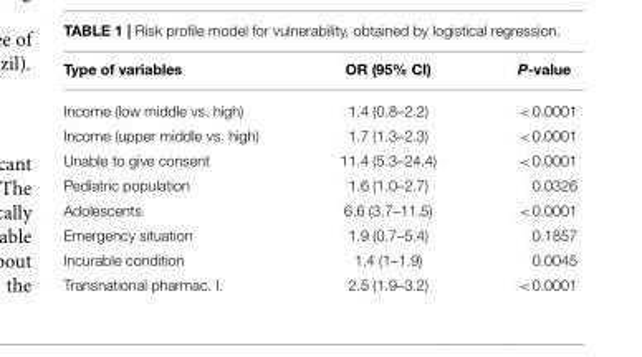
<table><thead><tr><td>Type of variables</td><td>OR (95% CI)</td><td>P-value</td></tr></thead><tbody><tr><td>Income (low middle vs. high)</td><td>1.4 (0.8–2.2)</td><td>&lt;0.0001</td></tr><tr><td>Income (upper middle vs. high)</td><td>1.7 (1.3–2.3)</td><td>&lt;0.0001</td></tr><tr><td>Unable to give consent</td><td>11.4 (5.3–24.4)</td><td>&lt;0.0001</td></tr><tr><td>Pediatric population</td><td>1.6 (1.0–2.7)</td><td>0.0326</td></tr><tr><td>Adolescents</td><td>6.6 (3.7–11.5)</td><td>&lt;0.0001</td></tr><tr><td>Emergency situation</td><td>1.9 (0.7–5.4)</td><td>0.1857</td></tr><tr><td>Incurable condition</td><td>1.4 (1–1.9)</td><td>0.0045</td></tr><tr><td>Transnational pharmac. I.</td><td>2.5 (1.9–3.2)</td><td>&lt;0.0001</td></tr></tbody></table>